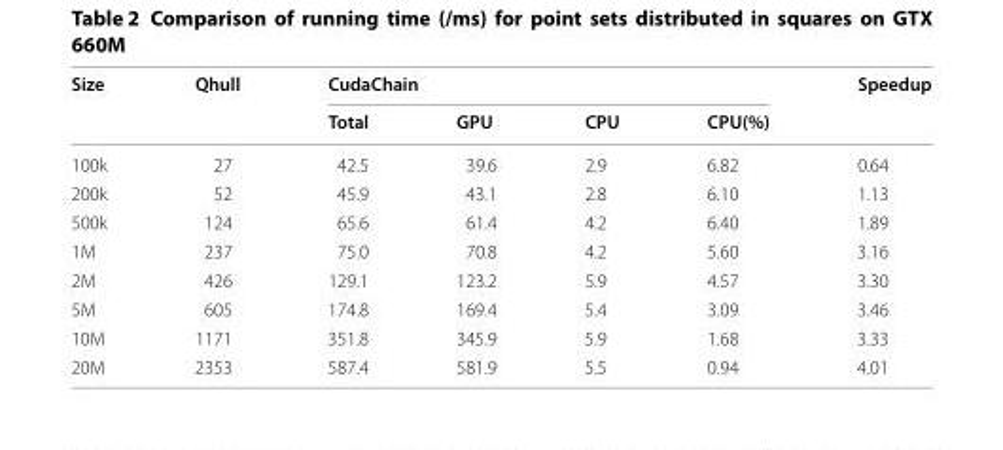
<table><thead><tr><td rowspan="2">Size</td><td rowspan="2">Qhull</td><td colspan="4">CudaChain</td><td rowspan="2">Speedup</td></tr><tr><td>Total</td><td>GPU</td><td>CPU</td><td>CPU(%)</td></tr></thead><tbody><tr><td>100k</td><td>27</td><td>42.5</td><td>39.6</td><td>2.9</td><td>6.82</td><td>0.64</td></tr><tr><td>200k</td><td>52</td><td>45.9</td><td>43.1</td><td>2.8</td><td>6.10</td><td>1.13</td></tr><tr><td>500k</td><td>124</td><td>65.6</td><td>61.4</td><td>4.2</td><td>6.40</td><td>1.89</td></tr><tr><td>1M</td><td>237</td><td>75.0</td><td>70.8</td><td>4.2</td><td>5.60</td><td>3.16</td></tr><tr><td>2M</td><td>426</td><td>129.1</td><td>123.2</td><td>5.9</td><td>4.57</td><td>3.30</td></tr><tr><td>5M</td><td>605</td><td>174.8</td><td>169.4</td><td>5.4</td><td>3.09</td><td>3.46</td></tr><tr><td>10M</td><td>1171</td><td>351.8</td><td>345.9</td><td>5.9</td><td>1.68</td><td>3.33</td></tr><tr><td>20M</td><td>2353</td><td>587.4</td><td>581.9</td><td>5.5</td><td>0.94</td><td>4.01</td></tr></tbody></table>